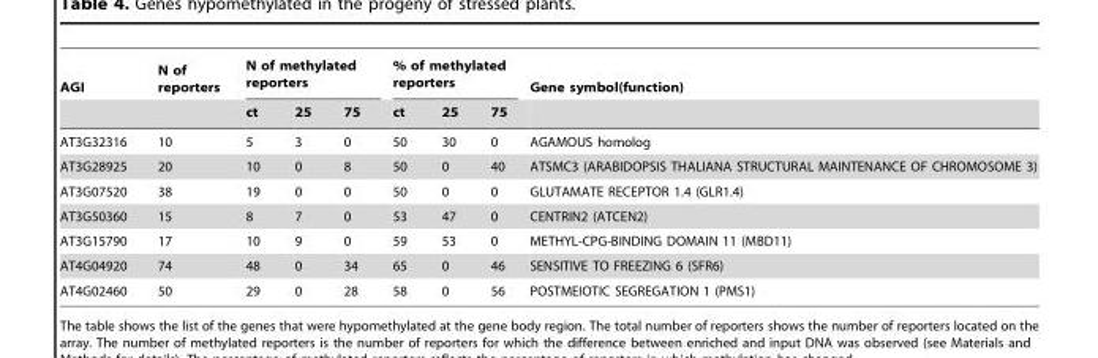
<table><thead><tr><td rowspan="2">AGI</td><td rowspan="2">N of reporters</td><td colspan="3">N of methylated reporters</td><td colspan="3">% of methylated reporters</td><td rowspan="2">Gene symbol(function)</td></tr><tr><td>ct</td><td>25</td><td>75</td><td>ct</td><td>25</td><td>75</td></tr></thead><tbody><tr><td>AT3G32316</td><td>10</td><td>5</td><td>3</td><td>0</td><td>50</td><td>30</td><td>0</td><td>AGAMOUS homolog</td></tr><tr><td>AT3G28925</td><td>20</td><td>10</td><td>0</td><td>8</td><td>50</td><td>0</td><td>40</td><td>ATSMC3 (ARABIDOPSIS THALIANA STRUCTURAL MAINTENANCE OF CHROMOSOME 3)</td></tr><tr><td>AT3G07520</td><td>38</td><td>19</td><td>0</td><td>0</td><td>50</td><td>0</td><td>0</td><td>GLUTAMATE RECEPTOR 1.4 (GLR1.4)</td></tr><tr><td>AT3G50360</td><td>15</td><td>8</td><td>7</td><td>0</td><td>53</td><td>47</td><td>0</td><td>CENTRIN2 (ATCEN2)</td></tr><tr><td>AT3G15790</td><td>17</td><td>10</td><td>9</td><td>0</td><td>59</td><td>53</td><td>0</td><td>METHYL-CPG-BINDING DOMAIN 11 (MBD11)</td></tr><tr><td>AT4G04920</td><td>74</td><td>48</td><td>0</td><td>34</td><td>65</td><td>0</td><td>46</td><td>SENSITIVE TO FREEZING 6 (SFR6)</td></tr><tr><td>AT4G02460</td><td>50</td><td>29</td><td>0</td><td>28</td><td>58</td><td>0</td><td>56</td><td>POSTMEIOTIC SEGREGATION 1 (PMS1)</td></tr></tbody></table>